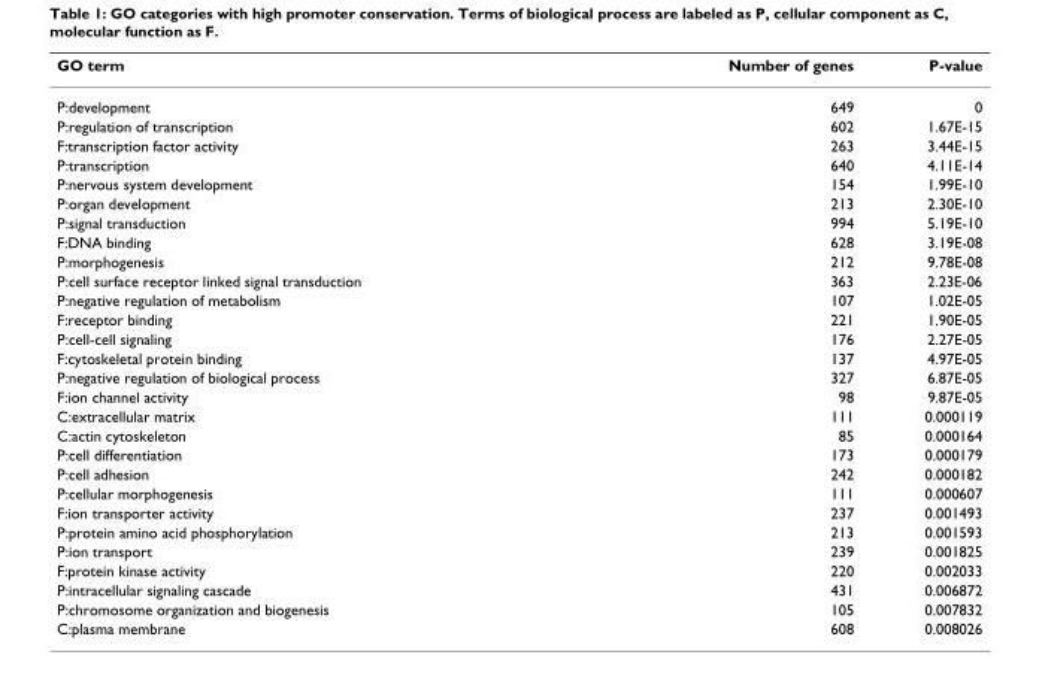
<table><thead><tr><td>GO term</td><td>Number of genes</td><td>P-value</td></tr></thead><tbody><tr><td>P:development</td><td>649</td><td>0</td></tr><tr><td>P:regulation of transcription</td><td>602</td><td>1.67E-15</td></tr><tr><td>F:transcription factor activity</td><td>263</td><td>3.44E-15</td></tr><tr><td>P:transcription</td><td>640</td><td>4.11E-14</td></tr><tr><td>P:nervous system development</td><td>154</td><td>1.99E-10</td></tr><tr><td>P:organ development</td><td>213</td><td>2.30E-10</td></tr><tr><td>P:signal transduction</td><td>994</td><td>5.19E-10</td></tr><tr><td>F:DNA binding</td><td>628</td><td>3.19E-08</td></tr><tr><td>P:morphogenesis</td><td>212</td><td>9.78E-08</td></tr><tr><td>P:cell surface receptor linked signal transduction</td><td>363</td><td>2.23E-06</td></tr><tr><td>P:negative regulation of metabolism</td><td>107</td><td>1.02E-05</td></tr><tr><td>F:receptor binding</td><td>221</td><td>1.90E-05</td></tr><tr><td>P:cell-cell signaling</td><td>176</td><td>2.27E-05</td></tr><tr><td>F:cytoskeletal protein binding</td><td>137</td><td>4.97E-05</td></tr><tr><td>P:negative regulation of biological process</td><td>327</td><td>6.87E-05</td></tr><tr><td>F:ion channel activity</td><td>98</td><td>9.87E-05</td></tr><tr><td>C:extracellular matrix</td><td>111</td><td>0.000119</td></tr><tr><td>C:actin cytoskeleton</td><td>85</td><td>0.000164</td></tr><tr><td>P:cell differentiation</td><td>173</td><td>0.000179</td></tr><tr><td>P:cell adhesion</td><td>242</td><td>0.000182</td></tr><tr><td>P:cellular morphogenesis</td><td>111</td><td>0.000607</td></tr><tr><td>F:ion transporter activity</td><td>237</td><td>0.001493</td></tr><tr><td>P:protein amino acid phosphorylation</td><td>213</td><td>0.001593</td></tr><tr><td>P:ion transport</td><td>239</td><td>0.001825</td></tr><tr><td>F:protein kinase activity</td><td>220</td><td>0.002033</td></tr><tr><td>P:intracellular signaling cascade</td><td>431</td><td>0.006872</td></tr><tr><td>P:chromosome organization and biogenesis</td><td>105</td><td>0.007832</td></tr><tr><td>C:plasma membrane</td><td>608</td><td>0.008026</td></tr></tbody></table>